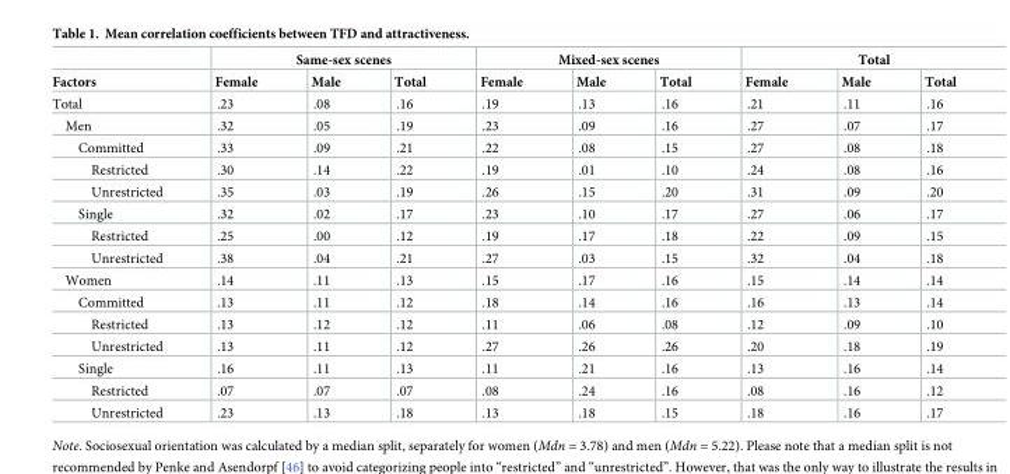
<table><thead><tr><td rowspan="2">Factors</td><td colspan="3">Same-sex scenes</td><td colspan="3">Mixed-sex scenes</td><td colspan="3">Total</td></tr><tr><td>Female</td><td>Male</td><td>Total</td><td>Female</td><td>Male</td><td>Total</td><td>Female</td><td>Male</td><td>Total</td></tr></thead><tbody><tr><td>Total</td><td>.23</td><td>.08</td><td>.16</td><td>.19</td><td>.13</td><td>.16</td><td>.21</td><td>.11</td><td>.16</td></tr><tr><td>Men</td><td>.32</td><td>.05</td><td>.19</td><td>.23</td><td>.09</td><td>.16</td><td>.27</td><td>.07</td><td>.17</td></tr><tr><td>Committed</td><td>.33</td><td>.09</td><td>.21</td><td>.22</td><td>.08</td><td>.15</td><td>.27</td><td>.08</td><td>.18</td></tr><tr><td>Restricted</td><td>.30</td><td>.14</td><td>.22</td><td>.19</td><td>.01</td><td>.10</td><td>.24</td><td>.08</td><td>.16</td></tr><tr><td>Unrestricted</td><td>.35</td><td>.03</td><td>.19</td><td>.26</td><td>.15</td><td>.20</td><td>.31</td><td>.09</td><td>.20</td></tr><tr><td>Single</td><td>.32</td><td>.02</td><td>.17</td><td>.23</td><td>.10</td><td>.17</td><td>.27</td><td>.06</td><td>.17</td></tr><tr><td>Restricted</td><td>.25</td><td>.00</td><td>.12</td><td>.19</td><td>.17</td><td>.18</td><td>.22</td><td>.09</td><td>.15</td></tr><tr><td>Unrestricted</td><td>.38</td><td>.04</td><td>.21</td><td>.27</td><td>.03</td><td>.15</td><td>.32</td><td>.04</td><td>.18</td></tr><tr><td>Women</td><td>.14</td><td>.11</td><td>.13</td><td>.15</td><td>.17</td><td>.16</td><td>.15</td><td>.14</td><td>.14</td></tr><tr><td>Committed</td><td>.13</td><td>.11</td><td>.12</td><td>.18</td><td>.14</td><td>.16</td><td>.16</td><td>.13</td><td>.14</td></tr><tr><td>Restricted</td><td>.13</td><td>.12</td><td>.12</td><td>.11</td><td>.06</td><td>.08</td><td>.12</td><td>.09</td><td>.10</td></tr><tr><td>Unrestricted</td><td>.13</td><td>.11</td><td>.12</td><td>.27</td><td>.26</td><td>.26</td><td>.20</td><td>.18</td><td>.19</td></tr><tr><td>Single</td><td>.16</td><td>.11</td><td>.13</td><td>.11</td><td>.21</td><td>.16</td><td>.13</td><td>.16</td><td>.14</td></tr><tr><td>Restricted</td><td>.07</td><td>.07</td><td>.07</td><td>.08</td><td>.24</td><td>.16</td><td>.08</td><td>.16</td><td>.12</td></tr><tr><td>Unrestricted</td><td>.23</td><td>.13</td><td>.18</td><td>.13</td><td>.18</td><td>.15</td><td>.18</td><td>.16</td><td>.17</td></tr></tbody></table>